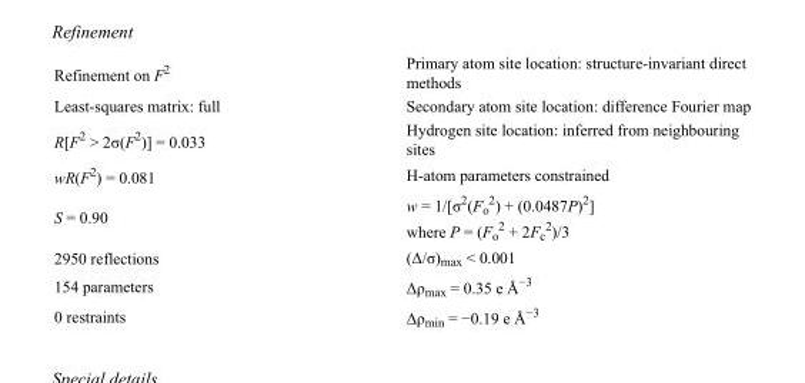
<table><tbody><tr><td>Refinement on F<sup>2</sup></td><td>Primary atom site location: structure-invariant direct methods</td></tr><tr><td>Least-squares matrix: full</td><td>Secondary atom site location: difference Fourier map</td></tr><tr><td>R[F<sup>2</sup> &gt; 2σ(F<sup>2</sup>)] = 0.033</td><td>Hydrogen site location: inferred from neighbouring sites</td></tr><tr><td>wR(F<sup>2</sup>) = 0.081</td><td>H-atom parameters constrained</td></tr><tr><td>S = 0.90</td><td>w = 1/[σ<sup>2</sup>(F<sub>o</sub> <sup>2</sup>) + (0.0487P)<sup>2</sup>] where P = (F<sub>o</sub> <sup>2</sup> + 2F<sub>c</sub> <sup>2</sup>)/3</td></tr><tr><td>2950 reflections</td><td>(Δ/σ)<sub>max</sub> &lt; 0.001</td></tr><tr><td>154 parameters</td><td>Δρ<sub>max</sub> = 0.35 e Å<sup>−3</sup></td></tr><tr><td>0 restraints</td><td>Δρ<sub>min</sub> = −0.19 e Å<sup>−3</sup></td></tr></tbody></table>